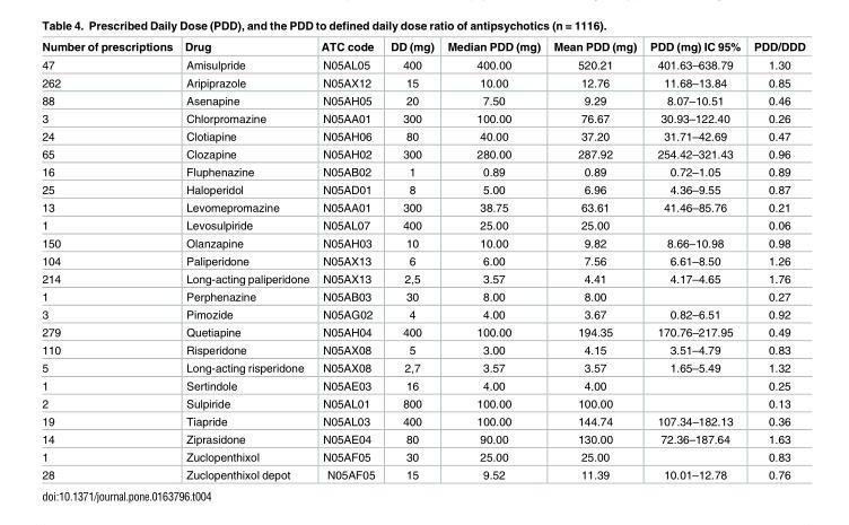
<table><thead><tr><td>Number of prescriptions</td><td>Drug</td><td>ATC code</td><td>DD (mg)</td><td>Median PDD (mg)</td><td>Mean PDD (mg)</td><td>PDD (mg) IC 95%</td><td>PDD/DDD</td></tr></thead><tbody><tr><td>47</td><td>Amisulpride</td><td>N05AL05</td><td>400</td><td>400.00</td><td>520.21</td><td>401.63–638.79</td><td>1.30</td></tr><tr><td>262</td><td>Aripiprazole</td><td>N05AX12</td><td>15</td><td>10.00</td><td>12.76</td><td>11.68–13.84</td><td>0.85</td></tr><tr><td>88</td><td>Asenapine</td><td>N05AH05</td><td>20</td><td>7.50</td><td>9.29</td><td>8.07–10.51</td><td>0.46</td></tr><tr><td>3</td><td>Chlorpromazine</td><td>N05AA01</td><td>300</td><td>100.00</td><td>76.67</td><td>30.93–122.40</td><td>0.26</td></tr><tr><td>24</td><td>Clotiapine</td><td>N05AH06</td><td>80</td><td>40.00</td><td>37.20</td><td>31.71–42.69</td><td>0.47</td></tr><tr><td>65</td><td>Clozapine</td><td>N05AH02</td><td>300</td><td>280.00</td><td>287.92</td><td>254.42–321.43</td><td>0.96</td></tr><tr><td>16</td><td>Fluphenazine</td><td>N05AB02</td><td>1</td><td>0.89</td><td>0.89</td><td>0.72–1.05</td><td>0.89</td></tr><tr><td>25</td><td>Haloperidol</td><td>N05AD01</td><td>8</td><td>5.00</td><td>6.96</td><td>4.36–9.55</td><td>0.87</td></tr><tr><td>13</td><td>Levomepromazine</td><td>N05AA01</td><td>300</td><td>38.75</td><td>63.61</td><td>41.46–85.76</td><td>0.21</td></tr><tr><td>1</td><td>Levosulpiride</td><td>N05AL07</td><td>400</td><td>25.00</td><td>25.00</td><td></td><td>0.06</td></tr><tr><td>150</td><td>Olanzapine</td><td>N05AH03</td><td>10</td><td>10.00</td><td>9.82</td><td>8.66–10.98</td><td>0.98</td></tr><tr><td>104</td><td>Paliperidone</td><td>N05AX13</td><td>6</td><td>6.00</td><td>7.56</td><td>6.61–8.50</td><td>1.26</td></tr><tr><td>214</td><td>Long-acting paliperidone</td><td>N05AX13</td><td>2,5</td><td>3.57</td><td>4.41</td><td>4.17–4.65</td><td>1.76</td></tr><tr><td>1</td><td>Perphenazine</td><td>N05AB03</td><td>30</td><td>8.00</td><td>8.00</td><td></td><td>0.27</td></tr><tr><td>3</td><td>Pimozide</td><td>N05AG02</td><td>4</td><td>4.00</td><td>3.67</td><td>0.82–6.51</td><td>0.92</td></tr><tr><td>279</td><td>Quetiapine</td><td>N05AH04</td><td>400</td><td>100.00</td><td>194.35</td><td>170.76–217.95</td><td>0.49</td></tr><tr><td>110</td><td>Risperidone</td><td>N05AX08</td><td>5</td><td>3.00</td><td>4.15</td><td>3.51–4.79</td><td>0.83</td></tr><tr><td>5</td><td>Long-acting risperidone</td><td>N05AX08</td><td>2,7</td><td>3.57</td><td>3.57</td><td>1.65–5.49</td><td>1.32</td></tr><tr><td>1</td><td>Sertindole</td><td>N05AE03</td><td>16</td><td>4.00</td><td>4.00</td><td></td><td>0.25</td></tr><tr><td>2</td><td>Sulpiride</td><td>N05AL01</td><td>800</td><td>100.00</td><td>100.00</td><td></td><td>0.13</td></tr><tr><td>19</td><td>Tiapride</td><td>N05AL03</td><td>400</td><td>100.00</td><td>144.74</td><td>107.34–182.13</td><td>0.36</td></tr><tr><td>14</td><td>Ziprasidone</td><td>N05AE04</td><td>80</td><td>90.00</td><td>130.00</td><td>72.36–187.64</td><td>1.63</td></tr><tr><td>1</td><td>Zuclopenthixol</td><td>N05AF05</td><td>30</td><td>25.00</td><td>25.00</td><td></td><td>0.83</td></tr><tr><td>28</td><td>Zuclopenthixol depot</td><td>N05AF05</td><td>15</td><td>9.52</td><td>11.39</td><td>10.01–12.78</td><td>0.76</td></tr></tbody></table>